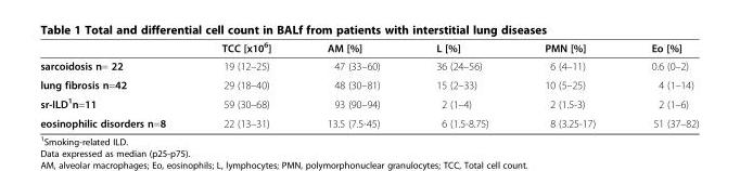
<table><thead><tr><td></td><td>TCC [x10<sup>6</sup>]</td><td>AM [%]</td><td>L [%]</td><td>PMN [%]</td><td>Eo [%]</td></tr></thead><tbody><tr><td>sarcoidosis n= 22</td><td>19 (12–25)</td><td>47 (33–60)</td><td>36 (24–56)</td><td>6 (4–11)</td><td>0.6 (0–2)</td></tr><tr><td>lung fibrosis n=42</td><td>29 (18–40)</td><td>48 (30–81)</td><td>15 (2–33)</td><td>10 (5–25)</td><td>4 (1–14)</td></tr><tr><td>sr-ILD<sup>1</sup>n=11</td><td>59 (30–68)</td><td>93 (90–94)</td><td>2 (1–4)</td><td>2 (1.5-3)</td><td>2 (1–6)</td></tr><tr><td>eosinophilic disorders n=8</td><td>22 (13–31)</td><td>13.5 (7.5-45)</td><td>6 (1.5-8.75)</td><td>8 (3.25-17)</td><td>51 (37–82)</td></tr></tbody></table>